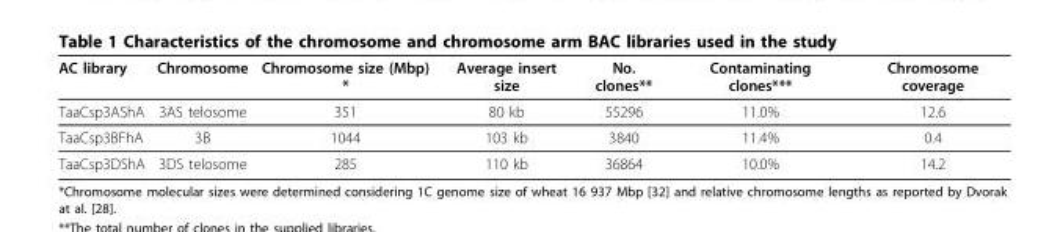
<table><thead><tr><td>AC library</td><td>Chromosome</td><td>Chromosome size (Mbp) *</td><td>Average insert size</td><td>No. clones**</td><td>Contaminating clones***</td><td>Chromosome coverage</td></tr></thead><tbody><tr><td>TaaCsp3AShA</td><td>3AS telosome</td><td>351</td><td>80 kb</td><td>55296</td><td>11.0%</td><td>12.6</td></tr><tr><td>TaaCsp3BFhA</td><td>3B</td><td>1044</td><td>103 kb</td><td>3840</td><td>11.4%</td><td>0.4</td></tr><tr><td>TaaCsp3DShA</td><td>3DS telosome</td><td>285</td><td>110 kb</td><td>36864</td><td>10.0%</td><td>14.2</td></tr></tbody></table>